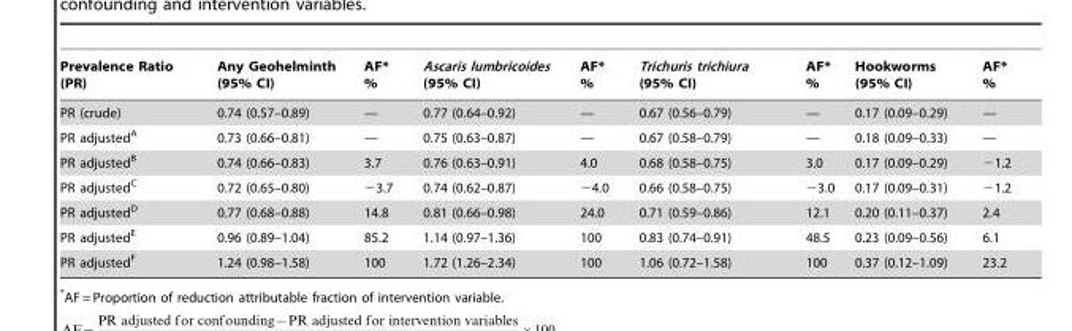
<table><thead><tr><td>Prevalence Ratio (PR)</td><td>Any Geohelminth (95% CI)</td><td>AF* %</td><td>Ascaris lumbricoides (95% CI)</td><td>AF* %</td><td>Trichuris trichiura (95% CI)</td><td>AF* %</td><td>Hookworms (95% CI)</td><td>AF* %</td></tr></thead><tbody><tr><td>PR (crude)</td><td>0.74 (0.57–0.89)</td><td>—</td><td>0.77 (0.64–0.92)</td><td>—</td><td>0.67 (0.56–0.79)</td><td>—</td><td>0.17 (0.09–0.29)</td><td>—</td></tr><tr><td>PR adjusted<sup>A</sup></td><td>0.73 (0.66–0.81)</td><td>—</td><td>0.75 (0.63–0.87)</td><td>—</td><td>0.67 (0.58–0.79)</td><td>—</td><td>0.18 (0.09–0.33)</td><td>—</td></tr><tr><td>PR adjusted<sup>B</sup></td><td>0.74 (0.66–0.83)</td><td>3.7</td><td>0.76 (0.63–0.91)</td><td>4.0</td><td>0.68 (0.58–0.75)</td><td>3.0</td><td>0.17 (0.09–0.29)</td><td>−1.2</td></tr><tr><td>PR adjusted<sup>C</sup></td><td>0.72 (0.65–0.80)</td><td>−3.7</td><td>0.74 (0.62–0.87)</td><td>−4.0</td><td>0.66 (0.58–0.75)</td><td>−3.0</td><td>0.17 (0.09–0.31)</td><td>−1.2</td></tr><tr><td>PR adjusted<sup>D</sup></td><td>0.77 (0.68–0.88)</td><td>14.8</td><td>0.81 (0.66–0.98)</td><td>24.0</td><td>0.71 (0.59–0.86)</td><td>12.1</td><td>0.20 (0.11–0.37)</td><td>2.4</td></tr><tr><td>PR adjusted<sup>E</sup></td><td>0.96 (0.89–1.04)</td><td>85.2</td><td>1.14 (0.97–1.36)</td><td>100</td><td>0.83 (0.74–0.91)</td><td>48.5</td><td>0.23 (0.09–0.56)</td><td>6.1</td></tr><tr><td>PR adjusted<sup>F</sup></td><td>1.24 (0.98–1.58)</td><td>100</td><td>1.72 (1.26–2.34)</td><td>100</td><td>1.06 (0.72–1.58)</td><td>100</td><td>0.37 (0.12–1.09)</td><td>23.2</td></tr></tbody></table>